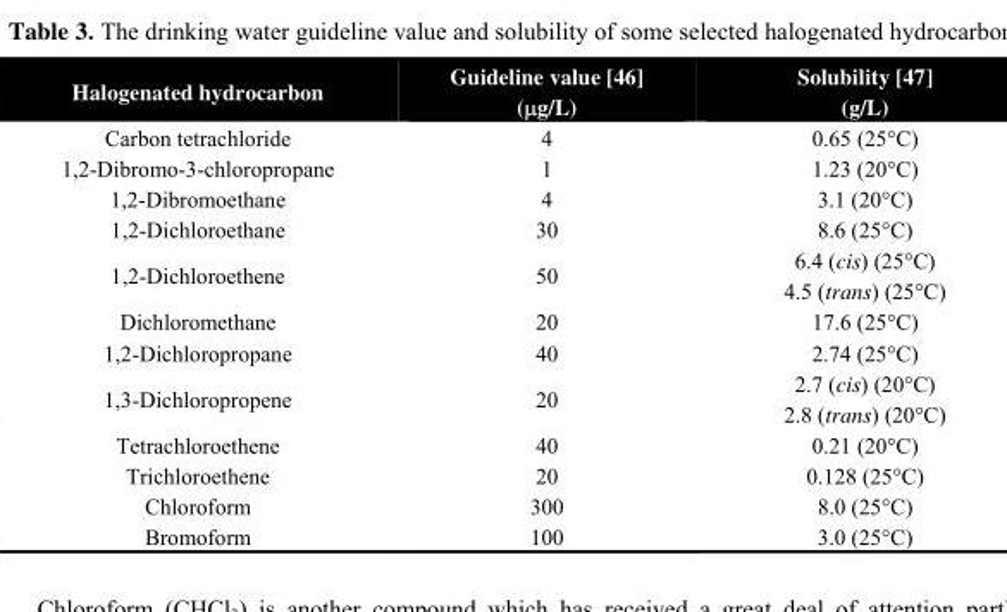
<table><thead><tr><td>Halogenated hydrocarbon</td><td>Guideline value [46] (μg/L)</td><td>Solubility [47] (g/L)</td></tr></thead><tbody><tr><td>Carbon tetrachloride</td><td>4</td><td>0.65 (25°C)</td></tr><tr><td>1,2-Dibromo-3-chloropropane</td><td>1</td><td>1.23 (20°C)</td></tr><tr><td>1,2-Dibromoethane</td><td>4</td><td>3.1 (20°C)</td></tr><tr><td>1,2-Dichloroethane</td><td>30</td><td>8.6 (25°C)</td></tr><tr><td>1,2-Dichloroethene</td><td>50</td><td>6.4 (cis) (25°C) 4.5 (trans) (25°C)</td></tr><tr><td>Dichloromethane</td><td>20</td><td>17.6 (25°C)</td></tr><tr><td>1,2-Dichloropropane</td><td>40</td><td>2.74 (25°C)</td></tr><tr><td>1,3-Dichloropropene</td><td>20</td><td>2.7 (cis) (20°C) 2.8 (trans) (20°C)</td></tr><tr><td>Tetrachloroethene</td><td>40</td><td>0.21 (20°C)</td></tr><tr><td>Trichloroethene</td><td>20</td><td>0.128 (25°C)</td></tr><tr><td>Chloroform</td><td>300</td><td>8.0 (25°C)</td></tr><tr><td>Bromoform</td><td>100</td><td>3.0 (25°C)</td></tr></tbody></table>